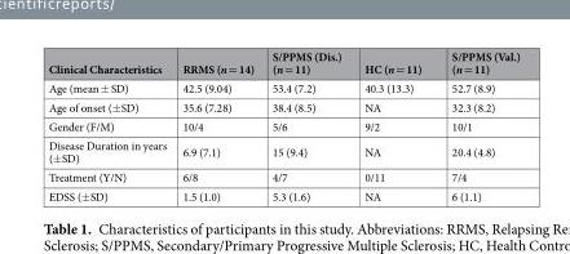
<table><thead><tr><td>Clinical Characteristics</td><td>RRMS (n = 14)</td><td>S/PPMS (Dis.) (n = 11)</td><td>HC (n = 11)</td><td>S/PPMS (Val.) (n = 11)</td></tr></thead><tbody><tr><td>Age (mean ± SD)</td><td>42.5 (9.04)</td><td>53.4 (7.2)</td><td>40.3 (13.3)</td><td>52.7 (8.9)</td></tr><tr><td>Age of onset (±SD)</td><td>35.6 (7.28)</td><td>38.4 (8.5)</td><td>NA</td><td>32.3 (8.2)</td></tr><tr><td>Gender (F/M)</td><td>10/4</td><td>5/6</td><td>9/2</td><td>10/1</td></tr><tr><td>Disease Duration in years (±SD)</td><td>6.9 (7.1)</td><td>15 (9.4)</td><td>NA</td><td>20.4 (4.8)</td></tr><tr><td>Treatment (Y/N)</td><td>6/8</td><td>4/7</td><td>0/11</td><td>7/4</td></tr><tr><td>EDSS (±SD)</td><td>1.5 (1.0)</td><td>5.3 (1.6)</td><td>NA</td><td>6 (1.1)</td></tr></tbody></table>